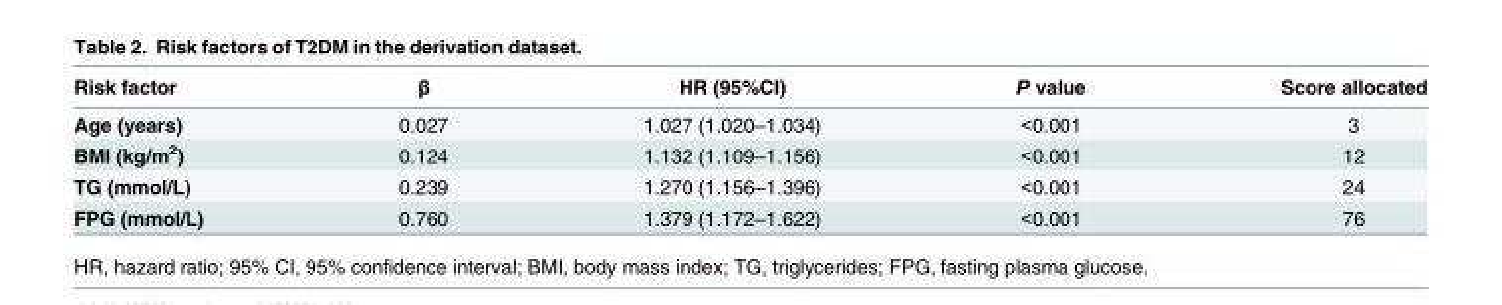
<table><thead><tr><td>Risk factor</td><td>β</td><td>HR (95%CI)</td><td>P value</td><td>Score allocated</td></tr></thead><tbody><tr><td>Age (years)</td><td>0.027</td><td>1.027 (1.020–1.034)</td><td>&lt;0.001</td><td>3</td></tr><tr><td>BMI (kg/m<sup>2</sup>)</td><td>0.124</td><td>1.132 (1.109–1.156)</td><td>&lt;0.001</td><td>12</td></tr><tr><td>TG (mmol/L)</td><td>0.239</td><td>1.270 (1.156–1.396)</td><td>&lt;0.001</td><td>24</td></tr><tr><td>FPG (mmol/L)</td><td>0.760</td><td>1.379 (1.172–1.622)</td><td>&lt;0.001</td><td>76</td></tr></tbody></table>